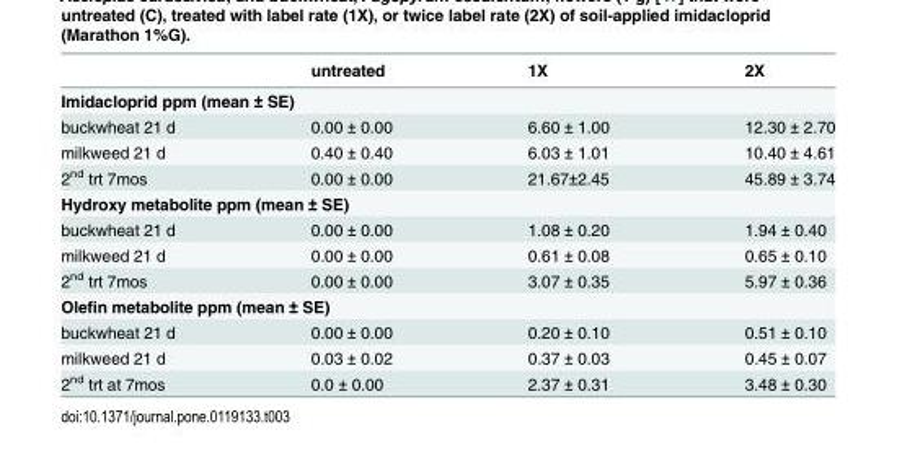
<table><thead><tr><td></td><td>untreated</td><td>1X</td><td>2X</td></tr></thead><tbody><tr><td colspan="4">Imidacloprid ppm (mean ± SE)</td></tr><tr><td>buckwheat 21 d</td><td>0.00 ± 0.00</td><td>6.60 ± 1.00</td><td>12.30 ± 2.70</td></tr><tr><td>milkweed 21 d</td><td>0.40 ± 0.40</td><td>6.03 ± 1.01</td><td>10.40 ± 4.61</td></tr><tr><td>2<sup>nd</sup> trt 7mos</td><td>0.00 ± 0.00</td><td>21.67±2.45</td><td>45.89 ± 3.74</td></tr><tr><td colspan="4">Hydroxy metabolite ppm (mean ± SE)</td></tr><tr><td>buckwheat 21 d</td><td>0.00 ± 0.00</td><td>1.08 ± 0.20</td><td>1.94 ± 0.40</td></tr><tr><td>milkweed 21 d</td><td>0.00 ± 0.00</td><td>0.61 ± 0.08</td><td>0.65 ± 0.10</td></tr><tr><td>2<sup>nd</sup> trt 7mos</td><td>0.00 ± 0.00</td><td>3.07 ± 0.35</td><td>5.97 ± 0.36</td></tr><tr><td colspan="4">Olefin metabolite ppm (mean ± SE)</td></tr><tr><td>buckwheat 21 d</td><td>0.00 ± 0.00</td><td>0.20 ± 0.10</td><td>0.51 ± 0.10</td></tr><tr><td>milkweed 21 d</td><td>0.03 ± 0.02</td><td>0.37 ± 0.03</td><td>0.45 ± 0.07</td></tr><tr><td>2<sup>nd</sup> trt at 7mos</td><td>0.0 ± 0.00</td><td>2.37 ± 0.31</td><td>3.48 ± 0.30</td></tr></tbody></table>